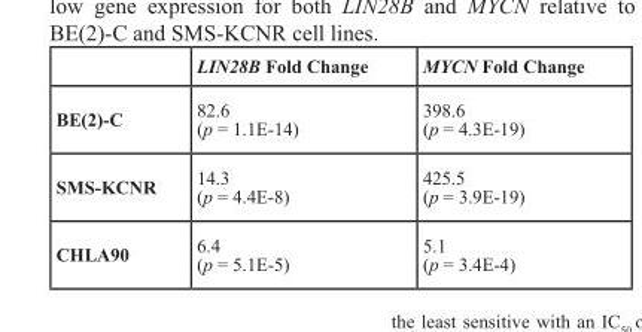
<table><thead><tr><td></td><td>LIN28B Fold Change</td><td>MYCN Fold Change</td></tr></thead><tbody><tr><td>BE(2)-C</td><td>82.6 (p = 1.1E-14)</td><td>398.6 (p = 4.3E-19)</td></tr><tr><td>SMS-KCNR</td><td>14.3 (p = 4.4E-8)</td><td>425.5 (p = 3.9E-19)</td></tr><tr><td>CHLA90</td><td>6.4 (p = 5.1E-5)</td><td>5.1 (p = 3.4E-4)</td></tr></tbody></table>